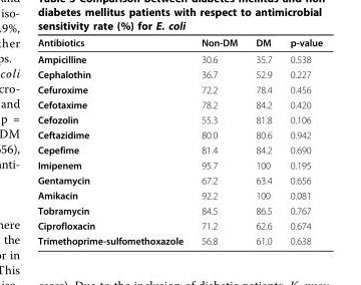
<table><thead><tr><td>Antibiotics</td><td>Non-DM</td><td>DM</td><td>p-value</td></tr></thead><tbody><tr><td>Ampicilline</td><td>30.6</td><td>35.7</td><td>0.538</td></tr><tr><td>Cephalothin</td><td>36.7</td><td>52.9</td><td>0.227</td></tr><tr><td>Cefuroxime</td><td>72.2</td><td>78.4</td><td>0.456</td></tr><tr><td>Cefotaxime</td><td>78.2</td><td>84.2</td><td>0.420</td></tr><tr><td>Cefozolin</td><td>55.3</td><td>81.8</td><td>0.106</td></tr><tr><td>Ceftazidime</td><td>80.0</td><td>80.6</td><td>0.942</td></tr><tr><td>Cepefime</td><td>81.4</td><td>84.2</td><td>0.690</td></tr><tr><td>Imipenem</td><td>95.7</td><td>100</td><td>0.195</td></tr><tr><td>Gentamycin</td><td>67.2</td><td>63.4</td><td>0.656</td></tr><tr><td>Amikacin</td><td>92.2</td><td>100</td><td>0.081</td></tr><tr><td>Tobramycin</td><td>84.5</td><td>86.5</td><td>0.767</td></tr><tr><td>Ciprofloxacin</td><td>71.2</td><td>62.6</td><td>0.674</td></tr><tr><td>Trimethoprime-sulfomethoxazole</td><td>56.8</td><td>61.0</td><td>0.638</td></tr></tbody></table>